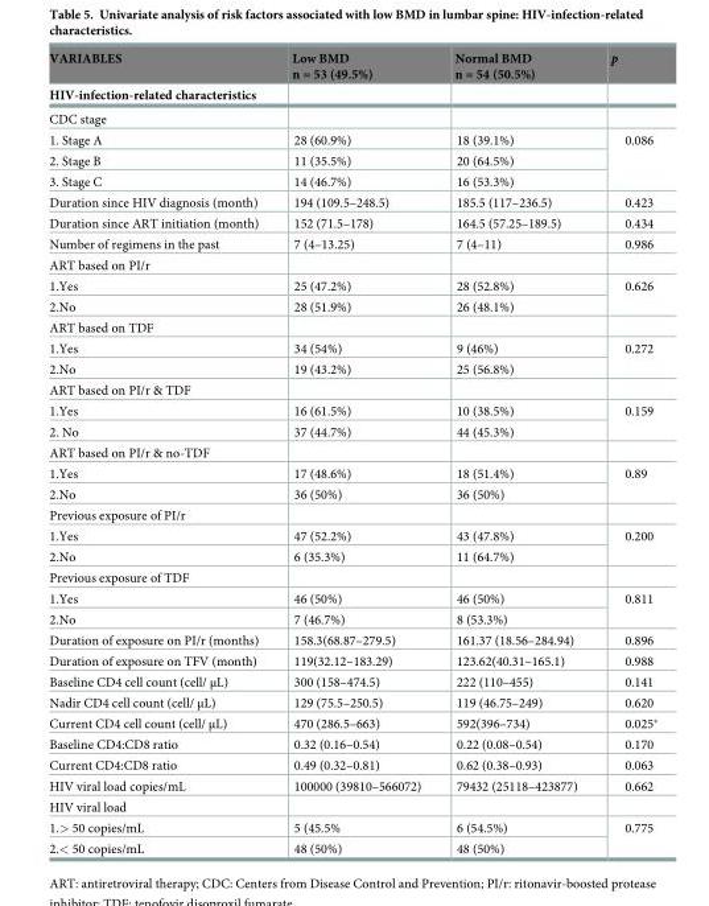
<table><thead><tr><td rowspan="2">VARIABLES HIV-infection-related characteristics</td><td rowspan="2">Low BMD n = 53 (49.5%)</td><td rowspan="2">Normal BMD n = 54 (50.5%)</td><td rowspan="2">p</td></tr><tr></tr></thead><tbody><tr><td colspan="4">CDC stage</td></tr><tr><td>1. Stage A</td><td>28 (60.9%)</td><td>18 (39.1%)</td><td rowspan="3">0.086</td></tr><tr><td>2. Stage B</td><td>11 (35.5%)</td><td>20 (64.5%)</td></tr><tr><td>3. Stage C</td><td>14 (46.7%)</td><td>16 (53.3%)</td></tr><tr><td>Duration since HIV diagnosis (month)</td><td>194 (109.5–248.5)</td><td>185.5 (117–236.5)</td><td>0.423</td></tr><tr><td>Duration since ART initiation (month)</td><td>152 (71.5–178)</td><td>164.5 (57.25–189.5)</td><td>0.434</td></tr><tr><td>Number of regimens in the past</td><td>7 (4–13.25)</td><td>7 (4–11)</td><td>0.986</td></tr><tr><td colspan="4">ART based on PI/r</td></tr><tr><td>1.Yes</td><td>25 (47.2%)</td><td>28 (52.8%)</td><td rowspan="2">0.626</td></tr><tr><td>2.No</td><td>28 (51.9%)</td><td>26 (48.1%)</td></tr><tr><td colspan="4">ART based on TDF</td></tr><tr><td>1.Yes</td><td>34 (54%)</td><td>9 (46%)</td><td rowspan="2">0.272</td></tr><tr><td>2.No</td><td>19 (43.2%)</td><td>25 (56.8%)</td></tr><tr><td colspan="4">ART based on PI/r &amp; TDF</td></tr><tr><td>1.Yes</td><td>16 (61.5%)</td><td>10 (38.5%)</td><td rowspan="2">0.159</td></tr><tr><td>2. No</td><td>37 (44.7%)</td><td>44 (45.3%)</td></tr><tr><td colspan="4">ART based on PI/r &amp; no-TDF</td></tr><tr><td>1.Yes</td><td>17 (48.6%)</td><td>18 (51.4%)</td><td rowspan="2">0.89</td></tr><tr><td>2.No</td><td>36 (50%)</td><td>36 (50%)</td></tr><tr><td colspan="4">Previous exposure of PI/r</td></tr><tr><td>1.Yes</td><td>47 (52.2%)</td><td>43 (47.8%)</td><td rowspan="2">0.200</td></tr><tr><td>2.No</td><td>6 (35.3%)</td><td>11 (64.7%)</td></tr><tr><td colspan="4">Previous exposure of TDF</td></tr><tr><td>1.Yes</td><td>46 (50%)</td><td>46 (50%)</td><td rowspan="2">0.811</td></tr><tr><td>2.No</td><td>7 (46.7%)</td><td>8 (53.3%)</td></tr><tr><td>Duration of exposure on PI/r (months)</td><td>158.3(68.87–279.5)</td><td>161.37 (18.56–284.94)</td><td>0.896</td></tr><tr><td>Duration of exposure on TFV (month)</td><td>119(32.12–183.29)</td><td>123.62(40.31–165.1)</td><td>0.988</td></tr><tr><td>Baseline CD4 cell count (cell/ μL)</td><td>300 (158–474.5)</td><td>222 (110–455)</td><td>0.141</td></tr><tr><td>Nadir CD4 cell count (cell/ μL)</td><td>129 (75.5–250.5)</td><td>119 (46.75–249)</td><td>0.620</td></tr><tr><td>Current CD4 cell count (cell/ μL)</td><td>470 (286.5–663)</td><td>592(396–734)</td><td>0.025*</td></tr><tr><td>Baseline CD4:CD8 ratio</td><td>0.32 (0.16–0.54)</td><td>0.22 (0.08–0.54)</td><td>0.170</td></tr><tr><td>Current CD4:CD8 ratio</td><td>0.49 (0.32–0.81)</td><td>0.62 (0.38–0.93)</td><td>0.063</td></tr><tr><td>HIV viral load copies/mL</td><td>100000 (39810–566072)</td><td>79432 (25118–423877)</td><td>0.662</td></tr><tr><td colspan="4">HIV viral load</td></tr><tr><td>1.&gt; 50 copies/mL</td><td>5 (45.5%</td><td>6 (54.5%)</td><td rowspan="2">0.775</td></tr><tr><td>2.&lt; 50 copies/mL</td><td>48 (50%)</td><td>48 (50%)</td></tr></tbody></table>